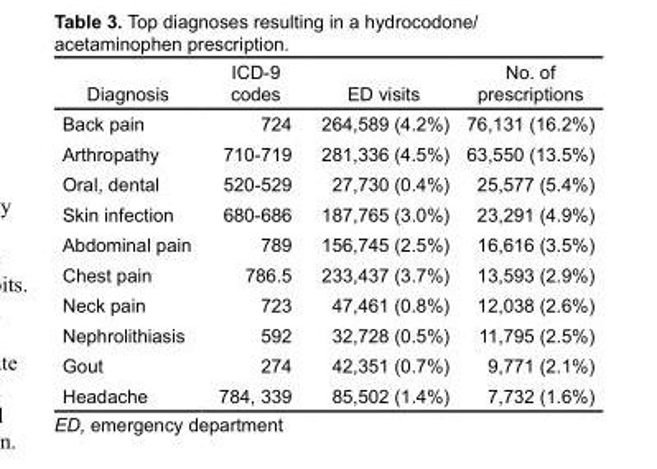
<table><thead><tr><td>Diagnosis</td><td>ICD-9 codes</td><td>ED visits</td><td>No. of prescriptions</td></tr></thead><tbody><tr><td>Back pain</td><td>724</td><td>264,589 (4.2%)</td><td>76,131 (16.2%)</td></tr><tr><td>Arthropathy</td><td>710-719</td><td>281,336 (4.5%)</td><td>63,550 (13.5%)</td></tr><tr><td>Oral, dental</td><td>520-529</td><td>27,730 (0.4%)</td><td>25,577 (5.4%)</td></tr><tr><td>Skin infection</td><td>680-686</td><td>187,765 (3.0%)</td><td>23,291 (4.9%)</td></tr><tr><td>Abdominal pain</td><td>789</td><td>156,745 (2.5%)</td><td>16,616 (3.5%)</td></tr><tr><td>Chest pain</td><td>786.5</td><td>233,437 (3.7%)</td><td>13,593 (2.9%)</td></tr><tr><td>Neck pain</td><td>723</td><td>47,461 (0.8%)</td><td>12,038 (2.6%)</td></tr><tr><td>Nephrolithiasis</td><td>592</td><td>32,728 (0.5%)</td><td>11,795 (2.5%)</td></tr><tr><td>Gout</td><td>274</td><td>42,351 (0.7%)</td><td>9,771 (2.1%)</td></tr><tr><td>Headache</td><td>784, 339</td><td>85,502 (1.4%)</td><td>7,732 (1.6%)</td></tr></tbody></table>